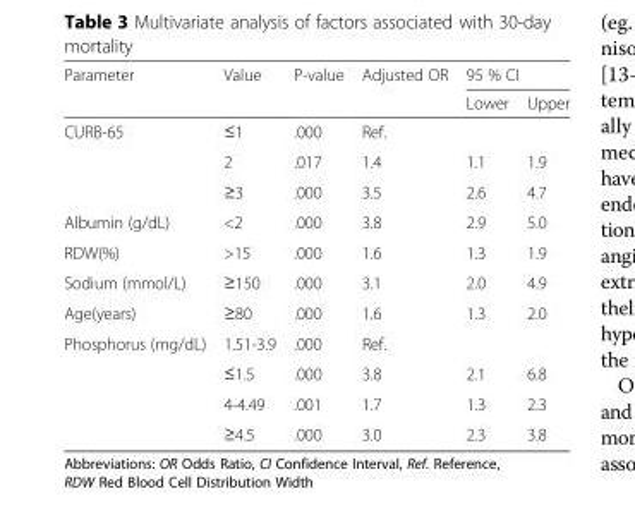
<table><thead><tr><td rowspan="2">Parameter</td><td rowspan="2">Value</td><td rowspan="2">P-value</td><td rowspan="2">Adjusted OR</td><td colspan="2">95 % CI</td></tr><tr><td>Lower</td><td>Upper</td></tr></thead><tbody><tr><td rowspan="3">CURB-65</td><td>≤1</td><td>.000</td><td>Ref.</td><td></td><td></td></tr><tr><td>2</td><td>.017</td><td>1.4</td><td>1.1</td><td>1.9</td></tr><tr><td>≥3</td><td>.000</td><td>3.5</td><td>2.6</td><td>4.7</td></tr><tr><td>Albumin (g/dL)</td><td>&lt;2</td><td>.000</td><td>3.8</td><td>2.9</td><td>5.0</td></tr><tr><td>RDW(%)</td><td>&gt;15</td><td>.000</td><td>1.6</td><td>1.3</td><td>1.9</td></tr><tr><td>Sodium (mmol/L)</td><td>≥150</td><td>.000</td><td>3.1</td><td>2.0</td><td>4.9</td></tr><tr><td>Age(years)</td><td>≥80</td><td>.000</td><td>1.6</td><td>1.3</td><td>2.0</td></tr><tr><td rowspan="4">Phosphorus (mg/dL)</td><td>1.51-3.9</td><td>.000</td><td>Ref.</td><td></td><td></td></tr><tr><td>≤1.5</td><td>.000</td><td>3.8</td><td>2.1</td><td>6.8</td></tr><tr><td>4-4.49</td><td>.001</td><td>1.7</td><td>1.3</td><td>2.3</td></tr><tr><td>≥4.5</td><td>.000</td><td>3.0</td><td>2.3</td><td>3.8</td></tr></tbody></table>